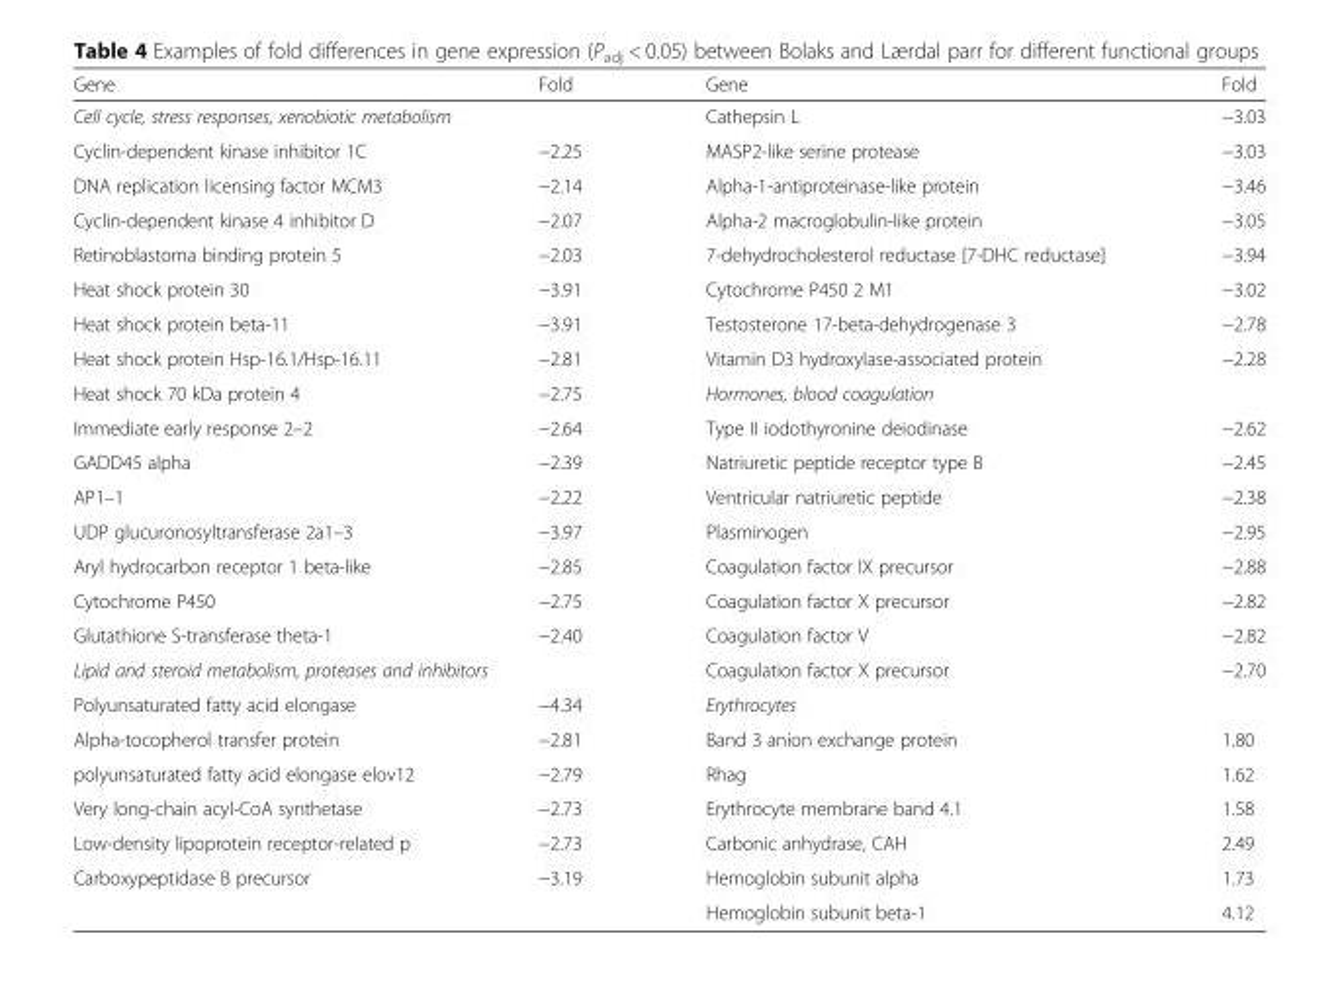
<table><thead><tr><td>Gene</td><td>Fold</td><td>Gene</td><td>Fold</td></tr></thead><tbody><tr><td colspan="2">Cell cycle, stress responses, xenobiotic metabolism</td><td>Cathepsin L</td><td>−3.03</td></tr><tr><td>Cyclin-dependent kinase inhibitor 1C</td><td>−2.25</td><td>MASP2-like serine protease</td><td>−3.03</td></tr><tr><td>DNA replication licensing factor MCM3</td><td>−2.14</td><td>Alpha-1-antiproteinase-like protein</td><td>−3.46</td></tr><tr><td>Cyclin-dependent kinase 4 inhibitor D</td><td>−2.07</td><td>Alpha-2 macroglobulin-like protein</td><td>−3.05</td></tr><tr><td>Retinoblastoma binding protein 5</td><td>−2.03</td><td>7-dehydrocholesterol reductase [7-DHC reductase]</td><td>−3.94</td></tr><tr><td>Heat shock protein 30</td><td>−3.91</td><td>Cytochrome P450 2 M1</td><td>−3.02</td></tr><tr><td>Heat shock protein beta-11</td><td>−3.91</td><td>Testosterone 17-beta-dehydrogenase 3</td><td>−2.78</td></tr><tr><td>Heat shock protein Hsp-16.1/Hsp-16.11</td><td>−2.81</td><td>Vitamin D3 hydroxylase-associated protein</td><td>−2.28</td></tr><tr><td>Heat shock 70 kDa protein 4</td><td>−2.75</td><td colspan="2">Hormones, blood coagulation</td></tr><tr><td>Immediate early response 2–2</td><td>−2.64</td><td>Type II iodothyronine deiodinase</td><td>−2.62</td></tr><tr><td>GADD45 alpha</td><td>−2.39</td><td>Natriuretic peptide receptor type B</td><td>−2.45</td></tr><tr><td>AP1–1</td><td>−2.22</td><td>Ventricular natriuretic peptide</td><td>−2.38</td></tr><tr><td>UDP glucuronosyltransferase 2a1–3</td><td>−3.97</td><td>Plasminogen</td><td>−2.95</td></tr><tr><td>Aryl hydrocarbon receptor 1 beta-like</td><td>−2.85</td><td>Coagulation factor IX precursor</td><td>−2.88</td></tr><tr><td>Cytochrome P450</td><td>−2.75</td><td>Coagulation factor X precursor</td><td>−2.82</td></tr><tr><td>Glutathione S-transferase theta-1</td><td>−2.40</td><td>Coagulation factor V</td><td>−2.82</td></tr><tr><td colspan="2">Lipid and steroid metabolism, proteases and inhibitors</td><td>Coagulation factor X precursor</td><td>−2.70</td></tr><tr><td>Polyunsaturated fatty acid elongase</td><td>−4.34</td><td colspan="2">Erythrocytes</td></tr><tr><td>Alpha-tocopherol transfer protein</td><td>−2.81</td><td>Band 3 anion exchange protein</td><td>1.80</td></tr><tr><td>polyunsaturated fatty acid elongase elov12</td><td>−2.79</td><td>Rhag</td><td>1.62</td></tr><tr><td>Very long-chain acyl-CoA synthetase</td><td>−2.73</td><td>Erythrocyte membrane band 4.1</td><td>1.58</td></tr><tr><td>Low-density lipoprotein receptor-related p</td><td>−2.73</td><td>Carbonic anhydrase, CAH</td><td>2.49</td></tr><tr><td rowspan="2">Carboxypeptidase B precursor</td><td rowspan="2">−3.19</td><td>Hemoglobin subunit alpha</td><td>1.73</td></tr><tr><td>Hemoglobin subunit beta-1</td><td>4.12</td></tr></tbody></table>